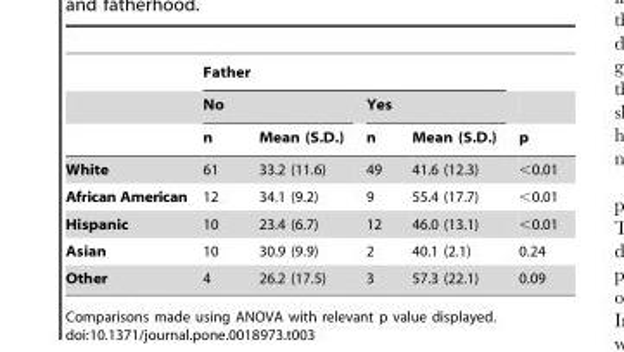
<table><thead><tr><td rowspan="3"></td><td colspan="4">Father</td><td rowspan="3">p</td></tr><tr><td colspan="2">No</td><td colspan="2">Yes</td></tr><tr><td>n</td><td>Mean (S.D.)</td><td>n</td><td>Mean (S.D.)</td></tr></thead><tbody><tr><td>White</td><td>61</td><td>33.2 (11.6)</td><td>49</td><td>41.6 (12.3)</td><td>&lt;0.01</td></tr><tr><td>African American</td><td>12</td><td>34.1 (9.2)</td><td>9</td><td>55.4 (17.7)</td><td>&lt;0.01</td></tr><tr><td>Hispanic</td><td>10</td><td>23.4 (6.7)</td><td>12</td><td>46.0 (13.1)</td><td>&lt;0.01</td></tr><tr><td>Asian</td><td>10</td><td>30.9 (9.9)</td><td>2</td><td>40.1 (2.1)</td><td>0.24</td></tr><tr><td>Other</td><td>4</td><td>26.2 (17.5)</td><td>3</td><td>57.3 (22.1)</td><td>0.09</td></tr></tbody></table>